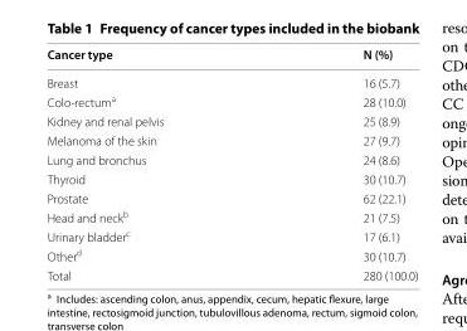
<table><thead><tr><td>Cancer type</td><td>N (%)</td></tr></thead><tbody><tr><td>Breast</td><td>16 (5.7)</td></tr><tr><td>Colo‑rectum<sup>a</sup></td><td>28 (10.0)</td></tr><tr><td>Kidney and renal pelvis</td><td>25 (8.9)</td></tr><tr><td>Melanoma of the skin</td><td>27 (9.7)</td></tr><tr><td>Lung and bronchus</td><td>24 (8.6)</td></tr><tr><td>Thyroid</td><td>30 (10.7)</td></tr><tr><td>Prostate</td><td>62 (22.1)</td></tr><tr><td>Head and neck<sup>b</sup></td><td>21 (7.5)</td></tr><tr><td>Urinary bladder<sup>c</sup></td><td>17 (6.1)</td></tr><tr><td>Other<sup>d</sup></td><td>30 (10.7)</td></tr><tr><td>Total</td><td>280 (100.0)</td></tr></tbody></table>